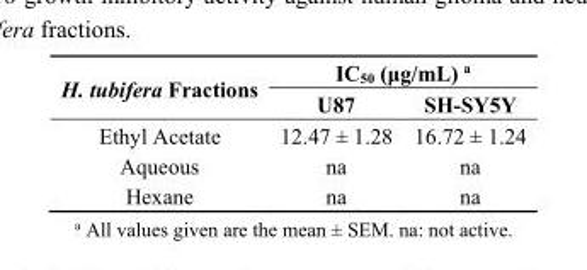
<table><thead><tr><td rowspan="2">H. tubifera Fractions</td><td colspan="2">IC<sub>50</sub> (μg/mL) <sup>a</sup></td></tr><tr><td>U87</td><td>SH-SY5Y</td></tr></thead><tbody><tr><td>Ethyl Acetate</td><td>12.47 ± 1.28</td><td>16.72 ± 1.24</td></tr><tr><td>Aqueous</td><td>na</td><td>na</td></tr><tr><td>Hexane</td><td>na</td><td>na</td></tr></tbody></table>